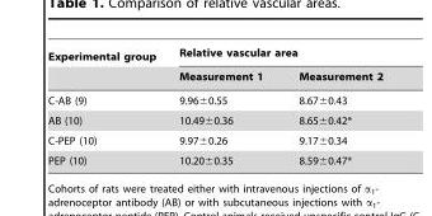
<table><thead><tr><td rowspan="2">Experimental group</td><td colspan="2">Relative vascular area</td></tr><tr><td>Measurement 1</td><td>Measurement 2</td></tr></thead><tbody><tr><td>C-AB (9)</td><td>9.96±0.55</td><td>8.67±0.43</td></tr><tr><td>AB (10)</td><td>10.49±0.36</td><td>8.65±0.42*</td></tr><tr><td>C-PEP (10)</td><td>9.97±0.26</td><td>9.17±0.34</td></tr><tr><td>PEP (10)</td><td>10.20±0.35</td><td>8.59±0.47*</td></tr></tbody></table>